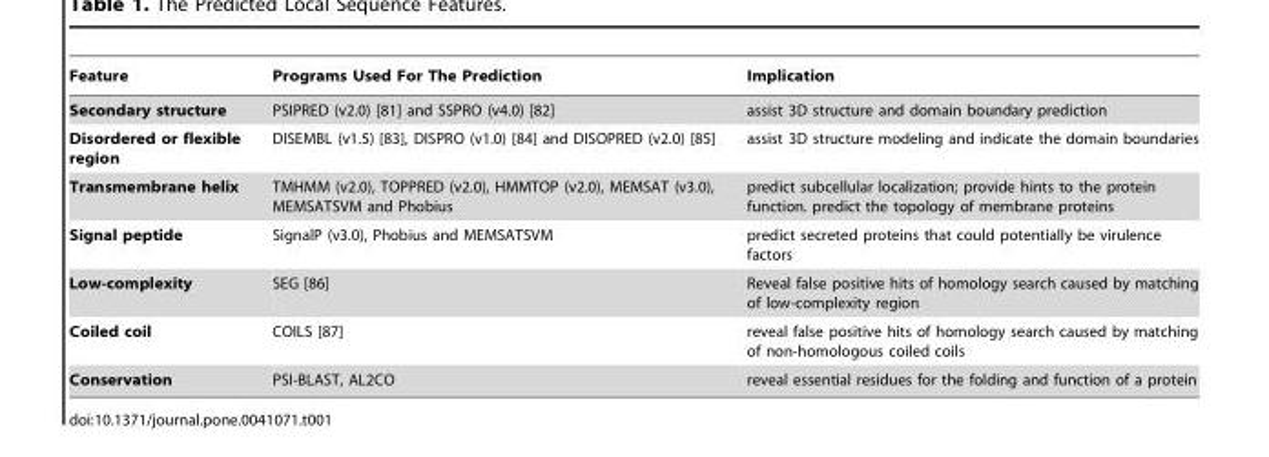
<table><thead><tr><td>Feature</td><td>Programs Used For The Prediction</td><td>Implication</td></tr></thead><tbody><tr><td>Secondary structure</td><td>PSIPRED (v2.0) [81] and SSPRO (v4.0) [82]</td><td>assist 3D structure and domain boundary prediction</td></tr><tr><td>Disordered or flexible region</td><td>DISEMBL (v1.5) [83], DISPRO (v1.0) [84] and DISOPRED (v2.0) [85]</td><td>assist 3D structure modeling and indicate the domain boundaries</td></tr><tr><td>Transmembrane helix</td><td>TMHMM (v2.0), TOPPRED (v2.0), HMMTOP (v2.0), MEMSAT (v3.0), MEMSATSVM and Phobius</td><td>predict subcellular localization; provide hints to the protein function. predict the topology of membrane proteins</td></tr><tr><td>Signal peptide</td><td>SignalP (v3.0), Phobius and MEMSATSVM</td><td>predict secreted proteins that could potentially be virulence factors</td></tr><tr><td>Low-complexity</td><td>SEG [86]</td><td>Reveal false positive hits of homology search caused by matching of low-complexity region</td></tr><tr><td>Coiled coil</td><td>COILS [87]</td><td>reveal false positive hits of homology search caused by matching of non-homologous coiled coils</td></tr><tr><td>Conservation</td><td>PSI-BLAST, AL2CO</td><td>reveal essential residues for the folding and function of a protein</td></tr></tbody></table>